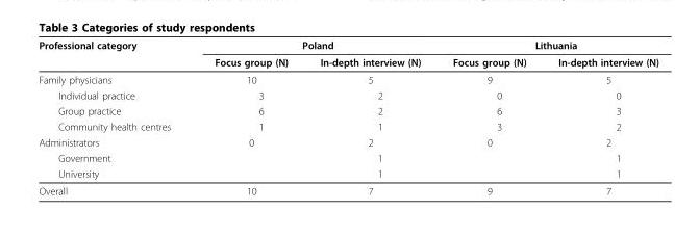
<table><thead><tr><td rowspan="2">Professional category</td><td colspan="2">Poland</td><td colspan="2">Lithuania</td></tr><tr><td>Focus group (N)</td><td>In-depth interview (N)</td><td>Focus group (N)</td><td>In-depth interview (N)</td></tr></thead><tbody><tr><td>Family physicians</td><td>10</td><td>5</td><td>9</td><td>5</td></tr><tr><td>Individual practice</td><td>3</td><td>2</td><td>0</td><td>0</td></tr><tr><td>Group practice</td><td>6</td><td>2</td><td>6</td><td>3</td></tr><tr><td>Community health centres</td><td>1</td><td>1</td><td>3</td><td>2</td></tr><tr><td>Administrators</td><td>0</td><td>2</td><td>0</td><td>2</td></tr><tr><td>Government</td><td></td><td>1</td><td></td><td>1</td></tr><tr><td>University</td><td></td><td>1</td><td></td><td>1</td></tr><tr><td>Overall</td><td>10</td><td>7</td><td>9</td><td>7</td></tr></tbody></table>